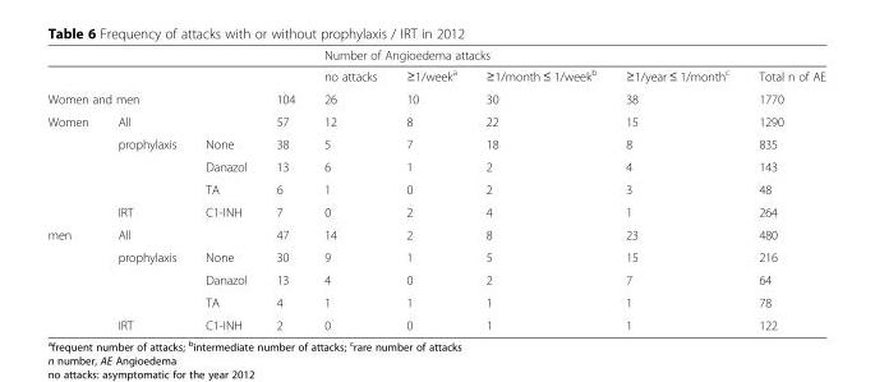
<table><thead><tr><td></td><td></td><td></td><td rowspan="2"></td><td colspan="5">Number of Angioedema attacks</td></tr><tr><td colspan="3"></td><td>no attacks</td><td>≥1/week<sup>a</sup></td><td>≥1/month ≤ 1/week<sup>b</sup></td><td>≥1/year ≤ 1/month<sup>c</sup></td><td>Total n of AE</td></tr></thead><tbody><tr><td colspan="3">Women and men</td><td>104</td><td>26</td><td>10</td><td>30</td><td>38</td><td>1770</td></tr><tr><td rowspan="5">Women</td><td colspan="2">All</td><td>57</td><td>12</td><td>8</td><td>22</td><td>15</td><td>1290</td></tr><tr><td rowspan="3">prophylaxis</td><td>None</td><td>38</td><td>5</td><td>7</td><td>18</td><td>8</td><td>835</td></tr><tr><td>Danazol</td><td>13</td><td>6</td><td>1</td><td>2</td><td>4</td><td>143</td></tr><tr><td>TA</td><td>6</td><td>1</td><td>0</td><td>2</td><td>3</td><td>48</td></tr><tr><td>IRT</td><td>C1-INH</td><td>7</td><td>0</td><td>2</td><td>4</td><td>1</td><td>264</td></tr><tr><td rowspan="5">men</td><td colspan="2">All</td><td>47</td><td>14</td><td>2</td><td>8</td><td>23</td><td>480</td></tr><tr><td rowspan="3">prophylaxis</td><td>None</td><td>30</td><td>9</td><td>1</td><td>5</td><td>15</td><td>216</td></tr><tr><td>Danazol</td><td>13</td><td>4</td><td>0</td><td>2</td><td>7</td><td>64</td></tr><tr><td>TA</td><td>4</td><td>1</td><td>1</td><td>1</td><td>1</td><td>78</td></tr><tr><td>IRT</td><td>C1-INH</td><td>2</td><td>0</td><td>0</td><td>1</td><td>1</td><td>122</td></tr></tbody></table>